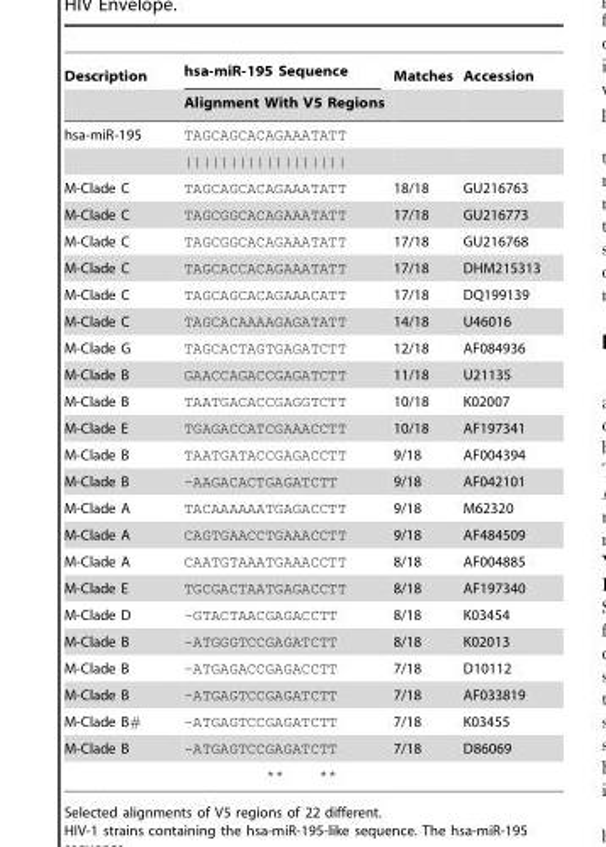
<table><thead><tr><td rowspan="2">Description</td><td rowspan="2">hsa-miR-195 Sequence Alignment With V5 Regions</td><td rowspan="2">Matches</td><td rowspan="2">Accession</td></tr><tr></tr></thead><tbody><tr><td rowspan="2">hsa-miR-195</td><td>TAGCAGCACAGAAATATT</td><td></td><td></td></tr><tr><td>||||||||||||||||||</td><td></td><td></td></tr><tr><td>M-Clade C</td><td>TAGCAGCACAGAAATATT</td><td>18/18</td><td>GU216763</td></tr><tr><td>M-Clade C</td><td>TAGCGGCACAGAAATATT</td><td>17/18</td><td>GU216773</td></tr><tr><td>M-Clade C</td><td>TAGCGGCACAGAAATATT</td><td>17/18</td><td>GU216768</td></tr><tr><td>M-Clade C</td><td>TAGCACCACAGAAATATT</td><td>17/18</td><td>DHM215313</td></tr><tr><td>M-Clade C</td><td>TAGCAGCACAGAAACATT</td><td>17/18</td><td>DQ199139</td></tr><tr><td>M-Clade C</td><td>TAGCACAAAAGAGATATT</td><td>14/18</td><td>U46016</td></tr><tr><td>M-Clade G</td><td>TAGCACTAGTGAGATCTT</td><td>12/18</td><td>AF084936</td></tr><tr><td>M-Clade B</td><td>GAACCAGACCGAGATCTT</td><td>11/18</td><td>U21135</td></tr><tr><td>M-Clade B</td><td>TAATGACACCGAGGTCTT</td><td>10/18</td><td>K02007</td></tr><tr><td>M-Clade E</td><td>TGAGACCATCGAAACCTT</td><td>10/18</td><td>AF197341</td></tr><tr><td>M-Clade B</td><td>TAATGATACCGAGACCTT</td><td>9/18</td><td>AF004394</td></tr><tr><td>M-Clade B</td><td>–AAGACACTGAGATCTT</td><td>9/18</td><td>AF042101</td></tr><tr><td>M-Clade A</td><td>TACAAAAAATGAGACCTT</td><td>9/18</td><td>M62320</td></tr><tr><td>M-Clade A</td><td>CAGTGAACCTGAAACCTT</td><td>9/18</td><td>AF484509</td></tr><tr><td>M-Clade A</td><td>CAATGTAAATGAAACCTT</td><td>8/18</td><td>AF004885</td></tr><tr><td>M-Clade E</td><td>TGCGACTAATGAGACCTT</td><td>8/18</td><td>AF197340</td></tr><tr><td>M-Clade D</td><td>–GTACTAACGAGACCTT</td><td>8/18</td><td>K03454</td></tr><tr><td>M-Clade B</td><td>–ATGGGTCCGAGATCTT</td><td>8/18</td><td>K02013</td></tr><tr><td>M-Clade B</td><td>–ATGAGACCGAGACCTT</td><td>7/18</td><td>D10112</td></tr><tr><td>M-Clade B</td><td>–ATGAGTCCGAGATCTT</td><td>7/18</td><td>AF033819</td></tr><tr><td>M-Clade B#</td><td>–ATGAGTCCGAGATCTT</td><td>7/18</td><td>K03455</td></tr><tr><td rowspan="2">M-Clade B</td><td>–ATGAGTCCGAGATCTT</td><td>7/18</td><td>D86069</td></tr><tr><td>** **</td><td></td><td></td></tr></tbody></table>